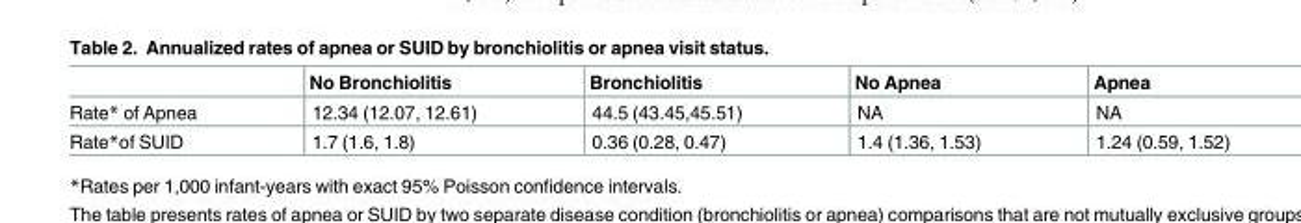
<table><thead><tr><td></td><td>No Bronchiolitis</td><td>Bronchiolitis</td><td>No Apnea</td><td>Apnea</td></tr></thead><tbody><tr><td>Rate* of Apnea</td><td>12.34 (12.07, 12.61)</td><td>44.5 (43.45,45.51)</td><td>NA</td><td>NA</td></tr><tr><td>Rate*of SUID</td><td>1.7 (1.6, 1.8)</td><td>0.36 (0.28, 0.47)</td><td>1.4 (1.36, 1.53)</td><td>1.24 (0.59, 1.52)</td></tr></tbody></table>